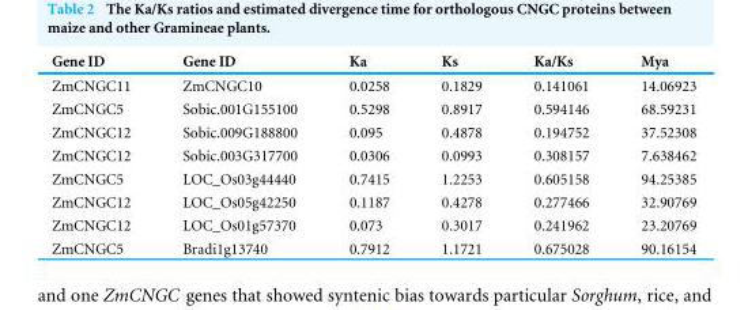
<table><thead><tr><td>Gene ID</td><td>Gene ID</td><td>Ka</td><td>Ks</td><td>Ka/Ks</td><td>Mya</td></tr></thead><tbody><tr><td>ZmCNGC11</td><td>ZmCNGC10</td><td>0.0258</td><td>0.1829</td><td>0.141061</td><td>14.06923</td></tr><tr><td>ZmCNGC5</td><td>Sobic.001G155100</td><td>0.5298</td><td>0.8917</td><td>0.594146</td><td>68.59231</td></tr><tr><td>ZmCNGC12</td><td>Sobic.009G188800</td><td>0.095</td><td>0.4878</td><td>0.194752</td><td>37.52308</td></tr><tr><td>ZmCNGC12</td><td>Sobic.003G317700</td><td>0.0306</td><td>0.0993</td><td>0.308157</td><td>7.638462</td></tr><tr><td>ZmCNGC5</td><td>LOC_Os03g44440</td><td>0.7415</td><td>1.2253</td><td>0.605158</td><td>94.25385</td></tr><tr><td>ZmCNGC12</td><td>LOC_Os05g42250</td><td>0.1187</td><td>0.4278</td><td>0.277466</td><td>32.90769</td></tr><tr><td>ZmCNGC12</td><td>LOC_Os01g57370</td><td>0.073</td><td>0.3017</td><td>0.241962</td><td>23.20769</td></tr><tr><td>ZmCNGC5</td><td>Bradi1g13740</td><td>0.7912</td><td>1.1721</td><td>0.675028</td><td>90.16154</td></tr></tbody></table>